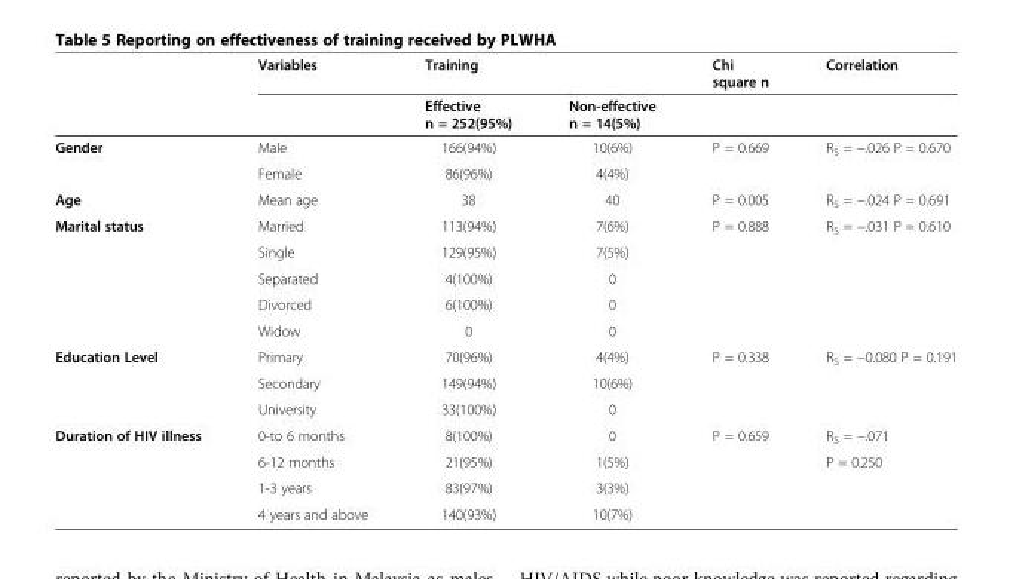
<table><thead><tr><td rowspan="2"></td><td rowspan="2">Variables</td><td rowspan="2">Training Effective n = 252(95%)</td><td rowspan="2">Non-effective n = 14(5%)</td><td rowspan="2">Chi square n</td><td rowspan="2">Correlation</td></tr><tr></tr></thead><tbody><tr><td rowspan="2">Gender</td><td>Male</td><td>166(94%)</td><td>10(6%)</td><td>P = 0.669</td><td>R<sub>S</sub> = −.026 P = 0.670</td></tr><tr><td>Female</td><td>86(96%)</td><td>4(4%)</td><td></td><td></td></tr><tr><td>Age</td><td>Mean age</td><td>38</td><td>40</td><td>P = 0.005</td><td>R<sub>S</sub> = −.024 P = 0.691</td></tr><tr><td rowspan="5">Marital status</td><td>Married</td><td>113(94%)</td><td>7(6%)</td><td>P = 0.888</td><td>R<sub>S</sub> = −.031 P = 0.610</td></tr><tr><td>Single</td><td>129(95%)</td><td>7(5%)</td><td></td><td></td></tr><tr><td>Separated</td><td>4(100%)</td><td>0</td><td></td><td></td></tr><tr><td>Divorced</td><td>6(100%)</td><td>0</td><td></td><td></td></tr><tr><td>Widow</td><td>0</td><td>0</td><td></td><td></td></tr><tr><td rowspan="3">Education Level</td><td>Primary</td><td>70(96%)</td><td>4(4%)</td><td>P = 0.338</td><td>R<sub>S</sub> = −0.080 P = 0.191</td></tr><tr><td>Secondary</td><td>149(94%)</td><td>10(6%)</td><td></td><td></td></tr><tr><td>University</td><td>33(100%)</td><td>0</td><td></td><td></td></tr><tr><td rowspan="4">Duration of HIV illness</td><td>0-to 6 months</td><td>8(100%)</td><td>0</td><td>P = 0.659</td><td>R<sub>S</sub> = −.071</td></tr><tr><td>6-12 months</td><td>21(95%)</td><td>1(5%)</td><td></td><td>P = 0.250</td></tr><tr><td>1-3 years</td><td>83(97%)</td><td>3(3%)</td><td></td><td></td></tr><tr><td>4 years and above</td><td>140(93%)</td><td>10(7%)</td><td></td><td></td></tr></tbody></table>